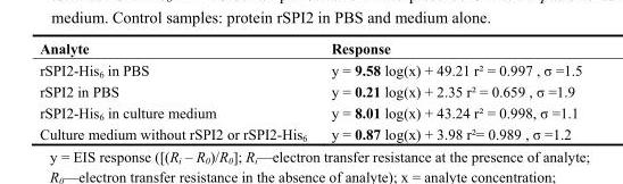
<table><thead><tr><td>Analyte</td><td>Response</td></tr></thead><tbody><tr><td>rSPI2-His<sub>6</sub> in PBS</td><td>y = 9.58 log(x) + 49.21 r² = 0.997 , σ =1.5</td></tr><tr><td>rSPI2 in PBS</td><td>y = 0.21 log(x) + 2.35 r² = 0.659 , σ =1.9</td></tr><tr><td>rSPI2-His<sub>6</sub> in culture medium</td><td>y = 8.01 log(x) + 43.24 r² = 0.998, σ =1.1</td></tr><tr><td>Culture medium without rSPI2 or rSPI2-His<sub>6</sub></td><td>y = 0.87 log(x) + 3.98 r²= 0.989 , σ =1.2</td></tr></tbody></table>